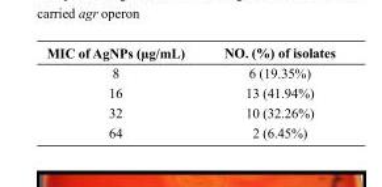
<table><thead><tr><td>MIC of AgNPs (µg/mL)</td><td>NO. (%) of isolates</td></tr></thead><tbody><tr><td>8</td><td>6 (19.35%)</td></tr><tr><td>16</td><td>13 (41.94%)</td></tr><tr><td>32</td><td>10 (32.26%)</td></tr><tr><td>64</td><td>2 (6.45%)</td></tr></tbody></table>